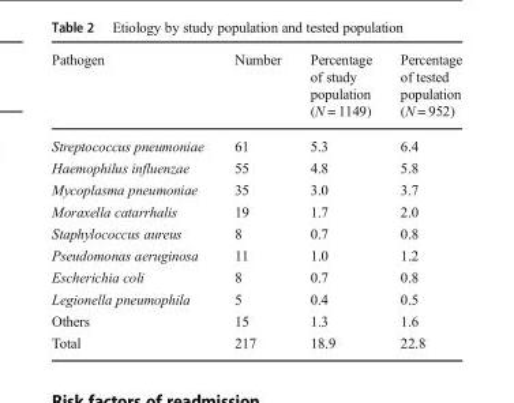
<table><thead><tr><td>Pathogen</td><td>Number</td><td>Percentage of study population (N = 1149)</td><td>Percentage of tested population (N = 952)</td></tr></thead><tbody><tr><td>Streptococcus pneumoniae</td><td>61</td><td>5.3</td><td>6.4</td></tr><tr><td>Haemophilus influenzae</td><td>55</td><td>4.8</td><td>5.8</td></tr><tr><td>Mycoplasma pneumoniae</td><td>35</td><td>3.0</td><td>3.7</td></tr><tr><td>Moraxella catarrhalis</td><td>19</td><td>1.7</td><td>2.0</td></tr><tr><td>Staphylococcus aureus</td><td>8</td><td>0.7</td><td>0.8</td></tr><tr><td>Pseudomonas aeruginosa</td><td>11</td><td>1.0</td><td>1.2</td></tr><tr><td>Escherichia coli</td><td>8</td><td>0.7</td><td>0.8</td></tr><tr><td>Legionella pneumophila</td><td>5</td><td>0.4</td><td>0.5</td></tr><tr><td>Others</td><td>15</td><td>1.3</td><td>1.6</td></tr><tr><td>Total</td><td>217</td><td>18.9</td><td>22.8</td></tr></tbody></table>